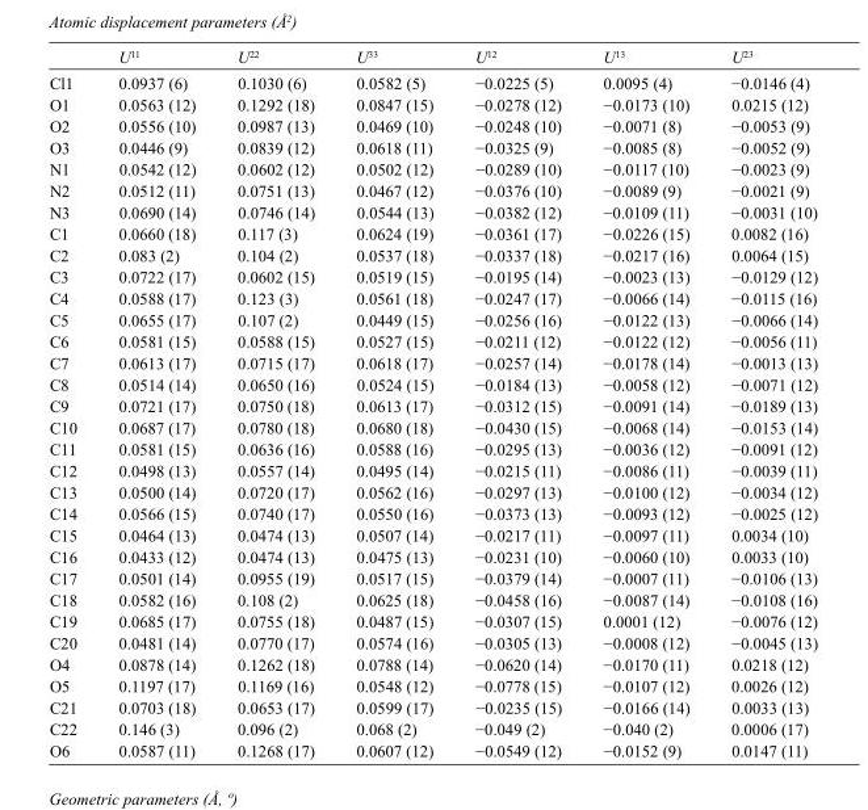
<table><thead><tr><td></td><td>U<sup>11</sup></td><td>U<sup>22</sup></td><td>U<sup>33</sup></td><td>U<sup>12</sup></td><td>U<sup>13</sup></td><td>U<sup>23</sup></td></tr></thead><tbody><tr><td>Cl1</td><td>0.0937 (6)</td><td>0.1030 (6)</td><td>0.0582 (5)</td><td>−0.0225 (5)</td><td>0.0095 (4)</td><td>−0.0146 (4)</td></tr><tr><td>O1</td><td>0.0563 (12)</td><td>0.1292 (18)</td><td>0.0847 (15)</td><td>−0.0278 (12)</td><td>−0.0173 (10)</td><td>0.0215 (12)</td></tr><tr><td>O2</td><td>0.0556 (10)</td><td>0.0987 (13)</td><td>0.0469 (10)</td><td>−0.0248 (10)</td><td>−0.0071 (8)</td><td>−0.0053 (9)</td></tr><tr><td>O3</td><td>0.0446 (9)</td><td>0.0839 (12)</td><td>0.0618 (11)</td><td>−0.0325 (9)</td><td>−0.0085 (8)</td><td>−0.0052 (9)</td></tr><tr><td>N1</td><td>0.0542 (12)</td><td>0.0602 (12)</td><td>0.0502 (12)</td><td>−0.0289 (10)</td><td>−0.0117 (10)</td><td>−0.0023 (9)</td></tr><tr><td>N2</td><td>0.0512 (11)</td><td>0.0751 (13)</td><td>0.0467 (12)</td><td>−0.0376 (10)</td><td>−0.0089 (9)</td><td>−0.0021 (9)</td></tr><tr><td>N3</td><td>0.0690 (14)</td><td>0.0746 (14)</td><td>0.0544 (13)</td><td>−0.0382 (12)</td><td>−0.0109 (11)</td><td>−0.0031 (10)</td></tr><tr><td>C1</td><td>0.0660 (18)</td><td>0.117 (3)</td><td>0.0624 (19)</td><td>−0.0361 (17)</td><td>−0.0226 (15)</td><td>0.0082 (16)</td></tr><tr><td>C2</td><td>0.083 (2)</td><td>0.104 (2)</td><td>0.0537 (18)</td><td>−0.0337 (18)</td><td>−0.0217 (16)</td><td>0.0064 (15)</td></tr><tr><td>C3</td><td>0.0722 (17)</td><td>0.0602 (15)</td><td>0.0519 (15)</td><td>−0.0195 (14)</td><td>−0.0023 (13)</td><td>−0.0129 (12)</td></tr><tr><td>C4</td><td>0.0588 (17)</td><td>0.123 (3)</td><td>0.0561 (18)</td><td>−0.0247 (17)</td><td>−0.0066 (14)</td><td>−0.0115 (16)</td></tr><tr><td>C5</td><td>0.0655 (17)</td><td>0.107 (2)</td><td>0.0449 (15)</td><td>−0.0256 (16)</td><td>−0.0122 (13)</td><td>−0.0066 (14)</td></tr><tr><td>C6</td><td>0.0581 (15)</td><td>0.0588 (15)</td><td>0.0527 (15)</td><td>−0.0211 (12)</td><td>−0.0122 (12)</td><td>−0.0056 (11)</td></tr><tr><td>C7</td><td>0.0613 (17)</td><td>0.0715 (17)</td><td>0.0618 (17)</td><td>−0.0257 (14)</td><td>−0.0178 (14)</td><td>−0.0013 (13)</td></tr><tr><td>C8</td><td>0.0514 (14)</td><td>0.0650 (16)</td><td>0.0524 (15)</td><td>−0.0184 (13)</td><td>−0.0058 (12)</td><td>−0.0071 (12)</td></tr><tr><td>C9</td><td>0.0721 (17)</td><td>0.0750 (18)</td><td>0.0613 (17)</td><td>−0.0312 (15)</td><td>−0.0091 (14)</td><td>−0.0189 (13)</td></tr><tr><td>C10</td><td>0.0687 (17)</td><td>0.0780 (18)</td><td>0.0680 (18)</td><td>−0.0430 (15)</td><td>−0.0068 (14)</td><td>−0.0153 (14)</td></tr><tr><td>C11</td><td>0.0581 (15)</td><td>0.0636 (16)</td><td>0.0588 (16)</td><td>−0.0295 (13)</td><td>−0.0036 (12)</td><td>−0.0091 (12)</td></tr><tr><td>C12</td><td>0.0498 (13)</td><td>0.0557 (14)</td><td>0.0495 (14)</td><td>−0.0215 (11)</td><td>−0.0086 (11)</td><td>−0.0039 (11)</td></tr><tr><td>C13</td><td>0.0500 (14)</td><td>0.0720 (17)</td><td>0.0562 (16)</td><td>−0.0297 (13)</td><td>−0.0100 (12)</td><td>−0.0034 (12)</td></tr><tr><td>C14</td><td>0.0566 (15)</td><td>0.0740 (17)</td><td>0.0550 (16)</td><td>−0.0373 (13)</td><td>−0.0093 (12)</td><td>−0.0025 (12)</td></tr><tr><td>C15</td><td>0.0464 (13)</td><td>0.0474 (13)</td><td>0.0507 (14)</td><td>−0.0217 (11)</td><td>−0.0097 (11)</td><td>0.0034 (10)</td></tr><tr><td>C16</td><td>0.0433 (12)</td><td>0.0474 (13)</td><td>0.0475 (13)</td><td>−0.0231 (10)</td><td>−0.0060 (10)</td><td>0.0033 (10)</td></tr><tr><td>C17</td><td>0.0501 (14)</td><td>0.0955 (19)</td><td>0.0517 (15)</td><td>−0.0379 (14)</td><td>−0.0007 (11)</td><td>−0.0106 (13)</td></tr><tr><td>C18</td><td>0.0582 (16)</td><td>0.108 (2)</td><td>0.0625 (18)</td><td>−0.0458 (16)</td><td>−0.0087 (14)</td><td>−0.0108 (16)</td></tr><tr><td>C19</td><td>0.0685 (17)</td><td>0.0755 (18)</td><td>0.0487 (15)</td><td>−0.0307 (15)</td><td>0.0001 (12)</td><td>−0.0076 (12)</td></tr><tr><td>C20</td><td>0.0481 (14)</td><td>0.0770 (17)</td><td>0.0574 (16)</td><td>−0.0305 (13)</td><td>−0.0008 (12)</td><td>−0.0045 (13)</td></tr><tr><td>O4</td><td>0.0878 (14)</td><td>0.1262 (18)</td><td>0.0788 (14)</td><td>−0.0620 (14)</td><td>−0.0170 (11)</td><td>0.0218 (12)</td></tr><tr><td>O5</td><td>0.1197 (17)</td><td>0.1169 (16)</td><td>0.0548 (12)</td><td>−0.0778 (15)</td><td>−0.0107 (12)</td><td>0.0026 (12)</td></tr><tr><td>C21</td><td>0.0703 (18)</td><td>0.0653 (17)</td><td>0.0599 (17)</td><td>−0.0235 (15)</td><td>−0.0166 (14)</td><td>0.0033 (13)</td></tr><tr><td>C22</td><td>0.146 (3)</td><td>0.096 (2)</td><td>0.068 (2)</td><td>−0.049 (2)</td><td>−0.040 (2)</td><td>0.0006 (17)</td></tr><tr><td>O6</td><td>0.0587 (11)</td><td>0.1268 (17)</td><td>0.0607 (12)</td><td>−0.0549 (12)</td><td>−0.0152 (9)</td><td>0.0147 (11)</td></tr></tbody></table>